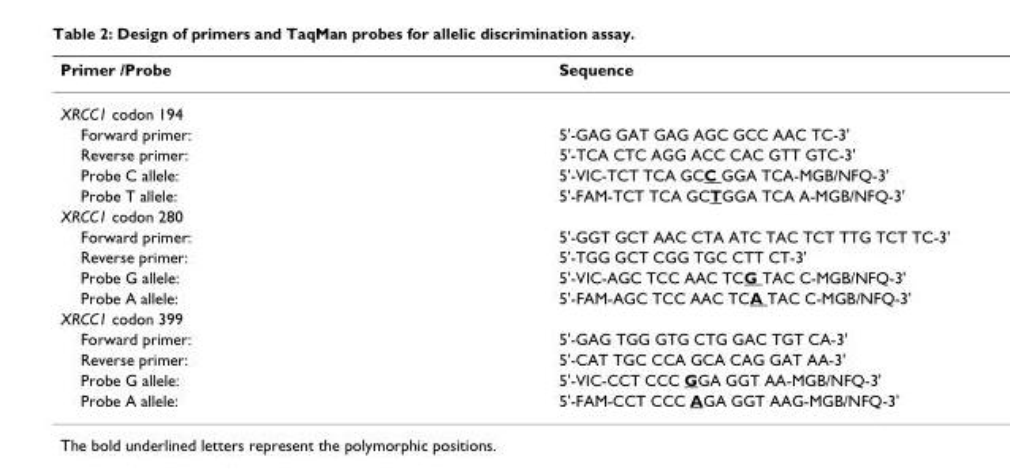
<table><thead><tr><td>Primer /Probe</td><td>Sequence</td></tr></thead><tbody><tr><td colspan="2">XRCC1 codon 194</td></tr><tr><td>Forward primer:</td><td>5&#x27;-GAG GAT GAG AGC GCC AAC TC-3&#x27;</td></tr><tr><td>Reverse primer:</td><td>5&#x27;-TCA CTC AGG ACC CAC GTT GTC-3&#x27;</td></tr><tr><td>Probe C allele:</td><td>5&#x27;-VIC-TCT TCA GCC GGA TCA-MGB/NFQ-3&#x27;</td></tr><tr><td>Probe T allele:</td><td>5&#x27;-FAM-TCT TCA GCTGGA TCA A-MGB/NFQ-3&#x27;</td></tr><tr><td colspan="2">XRCC1 codon 280</td></tr><tr><td>Forward primer:</td><td>5&#x27;-GGT GCT AAC CTA ATC TAC TCT TTG TCT TC-3&#x27;</td></tr><tr><td>Reverse primer:</td><td>5&#x27;-TGG GCT CGG TGC CTT CT-3&#x27;</td></tr><tr><td>Probe G allele:</td><td>5&#x27;-VIC-AGC TCC AAC TCG TAC C-MGB/NFQ-3&#x27;</td></tr><tr><td>Probe A allele:</td><td>5&#x27;-FAM-AGC TCC AAC TCA TAC C-MGB/NFQ-3&#x27;</td></tr><tr><td colspan="2">XRCC1 codon 399</td></tr><tr><td>Forward primer:</td><td>5&#x27;-GAG TGG GTG CTG GAC TGT CA-3&#x27;</td></tr><tr><td>Reverse primer:</td><td>5&#x27;-CAT TGC CCA GCA CAG GAT AA-3&#x27;</td></tr><tr><td>Probe G allele:</td><td>5&#x27;-VIC-CCT CCC GGA GGT AA-MGB/NFQ-3&#x27;</td></tr><tr><td>Probe A allele:</td><td>5&#x27;-FAM-CCT CCC AGA GGT AAG-MGB/NFQ-3&#x27;</td></tr></tbody></table>